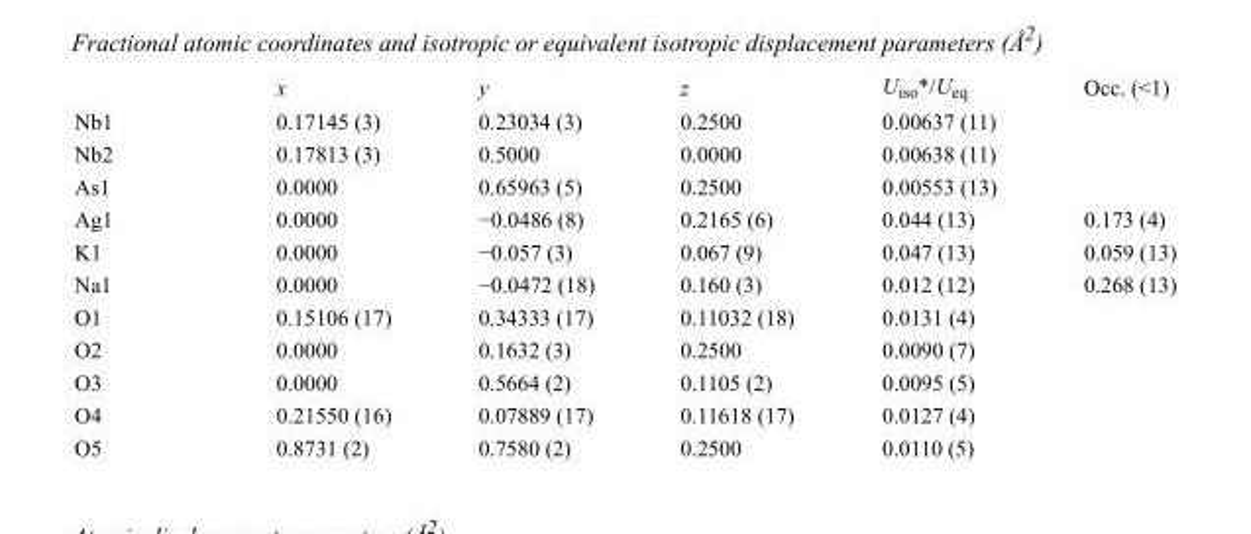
<table><thead><tr><td></td><td>x</td><td>y</td><td>z</td><td>U<sub>iso</sub>*/U<sub>eq</sub></td><td>Occ. (&lt;1)</td></tr></thead><tbody><tr><td>Nb1</td><td>0.17145 (3)</td><td>0.23034 (3)</td><td>0.2500</td><td>0.00637 (11)</td><td></td></tr><tr><td>Nb2</td><td>0.17813 (3)</td><td>0.5000</td><td>0.0000</td><td>0.00638 (11)</td><td></td></tr><tr><td>As1</td><td>0.0000</td><td>0.65963 (5)</td><td>0.2500</td><td>0.00553 (13)</td><td></td></tr><tr><td>Ag1</td><td>0.0000</td><td>−0.0486 (8)</td><td>0.2165 (6)</td><td>0.044 (13)</td><td>0.173 (4)</td></tr><tr><td>K1</td><td>0.0000</td><td>−0.057 (3)</td><td>0.067 (9)</td><td>0.047 (13)</td><td>0.059 (13)</td></tr><tr><td>Na1</td><td>0.0000</td><td>−0.0472 (18)</td><td>0.160 (3)</td><td>0.012 (12)</td><td>0.268 (13)</td></tr><tr><td>O1</td><td>0.15106 (17)</td><td>0.34333 (17)</td><td>0.11032 (18)</td><td>0.0131 (4)</td><td></td></tr><tr><td>O2</td><td>0.0000</td><td>0.1632 (3)</td><td>0.2500</td><td>0.0090 (7)</td><td></td></tr><tr><td>O3</td><td>0.0000</td><td>0.5664 (2)</td><td>0.1105 (2)</td><td>0.0095 (5)</td><td></td></tr><tr><td>O4</td><td>0.21550 (16)</td><td>0.07889 (17)</td><td>0.11618 (17)</td><td>0.0127 (4)</td><td></td></tr><tr><td>O5</td><td>0.8731 (2)</td><td>0.7580 (2)</td><td>0.2500</td><td>0.0110 (5)</td><td></td></tr></tbody></table>